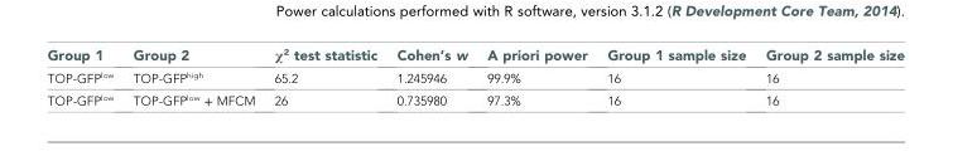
<table><thead><tr><td>Group 1</td><td>Group 2</td><td>χ<sup>2</sup> test statistic</td><td>Cohen’s w</td><td>A priori power</td><td>Group 1 sample size</td><td>Group 2 sample size</td></tr></thead><tbody><tr><td>TOP-GFP<sup>low</sup></td><td>TOP-GFP<sup>high</sup></td><td>65.2</td><td>1.245946</td><td>99.9%</td><td>16</td><td>16</td></tr><tr><td>TOP-GFP<sup>low</sup></td><td>TOP-GFP<sup>low</sup> + MFCM</td><td>26</td><td>0.735980</td><td>97.3%</td><td>16</td><td>16</td></tr></tbody></table>